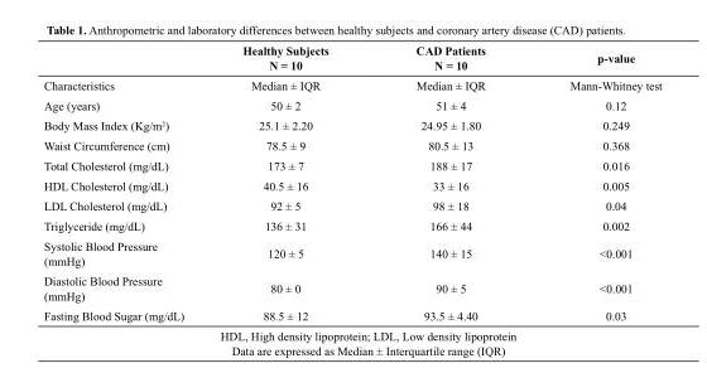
<table><thead><tr><td></td><td>Healthy Subjects N = 10</td><td>CAD Patients N = 10</td><td>p-value</td></tr></thead><tbody><tr><td>Characteristics</td><td>Median ± IQR</td><td>Median ± IQR</td><td>Mann-Whitney test</td></tr><tr><td>Age (years)</td><td>50 ± 2</td><td>51 ± 4</td><td>0.12</td></tr><tr><td>Body Mass Index (Kg/m<sup>2</sup>)</td><td>25.1 ± 2.20</td><td>24.95 ± 1.80</td><td>0.249</td></tr><tr><td>Waist Circumference (cm)</td><td>78.5 ± 9</td><td>80.5 ± 13</td><td>0.368</td></tr><tr><td>Total Cholesterol (mg/dL)</td><td>173 ± 7</td><td>188 ± 17</td><td>0.016</td></tr><tr><td>HDL Cholesterol (mg/dL)</td><td>40.5 ± 16</td><td>33 ± 16</td><td>0.005</td></tr><tr><td>LDL Cholesterol (mg/dL)</td><td>92 ± 5</td><td>98 ± 18</td><td>0.04</td></tr><tr><td>Triglyceride (mg/dL)</td><td>136 ± 31</td><td>166 ± 44</td><td>0.002</td></tr><tr><td>Systolic Blood Pressure (mmHg)</td><td>120 ± 5</td><td>140 ± 15</td><td>&lt;0.001</td></tr><tr><td>Diastolic Blood Pressure (mmHg)</td><td>80 ± 0</td><td>90 ± 5</td><td>&lt;0.001</td></tr><tr><td>Fasting Blood Sugar (mg/dL)</td><td>88.5 ± 12</td><td>93.5 ± 4.40</td><td>0.03</td></tr></tbody></table>